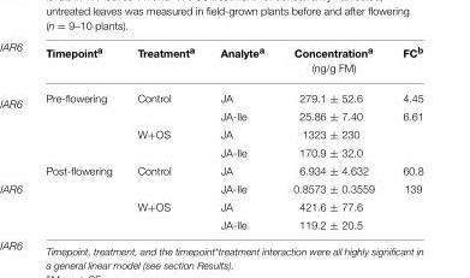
<table><thead><tr><td>Timepoint<sup>a</sup></td><td>Treatment<sup>a</sup></td><td>Analyte<sup>a</sup></td><td>Concentration<sup>a</sup> (ng/g FM)</td><td>FC<sup>b</sup></td></tr></thead><tbody><tr><td rowspan="4">Pre-flowering</td><td>Control</td><td>JA</td><td>279.1 ± 52.6</td><td>4.45</td></tr><tr><td></td><td>JA-Ile</td><td>25.86 ± 7.40</td><td>6.61</td></tr><tr><td>W+OS</td><td>JA</td><td>1323 ± 230</td><td></td></tr><tr><td></td><td>JA-Ile</td><td>170.9 ± 32.0</td><td></td></tr><tr><td rowspan="4">Post-flowering</td><td>Control</td><td>JA</td><td>6.934 ± 4.632</td><td>60.8</td></tr><tr><td></td><td>JA-Ile</td><td>0.8573 ± 0.3559</td><td>139</td></tr><tr><td>W+OS</td><td>JA</td><td>421.6 ± 77.6</td><td></td></tr><tr><td></td><td>JA-Ile</td><td>119.2 ± 20.5</td><td></td></tr></tbody></table>